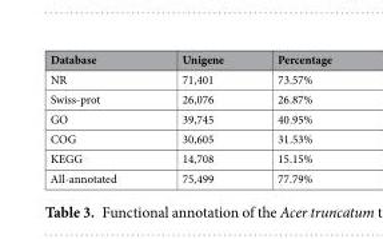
<table><thead><tr><td>Database</td><td>Unigene</td><td>Percentage</td></tr></thead><tbody><tr><td>NR</td><td>71,401</td><td>73.57%</td></tr><tr><td>Swiss-prot</td><td>26,076</td><td>26.87%</td></tr><tr><td>GO</td><td>39,745</td><td>40.95%</td></tr><tr><td>COG</td><td>30,605</td><td>31.53%</td></tr><tr><td>KEGG</td><td>14,708</td><td>15.15%</td></tr><tr><td>All-annotated</td><td>75,499</td><td>77.79%</td></tr></tbody></table>